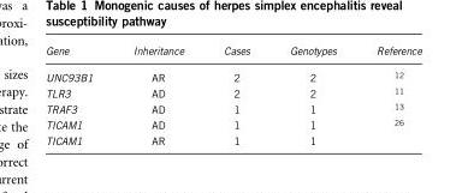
<table><thead><tr><td>Gene</td><td>Inheritance</td><td>Cases</td><td>Genotypes</td><td>Reference</td></tr></thead><tbody><tr><td>UNC93B1</td><td>AR</td><td>2</td><td>2</td><td><sup>12</sup></td></tr><tr><td>TLR3</td><td>AD</td><td>2</td><td>2</td><td><sup>11</sup></td></tr><tr><td>TRAF3</td><td>AD</td><td>1</td><td>1</td><td><sup>13</sup></td></tr><tr><td>TICAM1</td><td>AD</td><td>1</td><td>1</td><td><sup>26</sup></td></tr><tr><td>TICAM1</td><td>AR</td><td>1</td><td>1</td><td></td></tr></tbody></table>